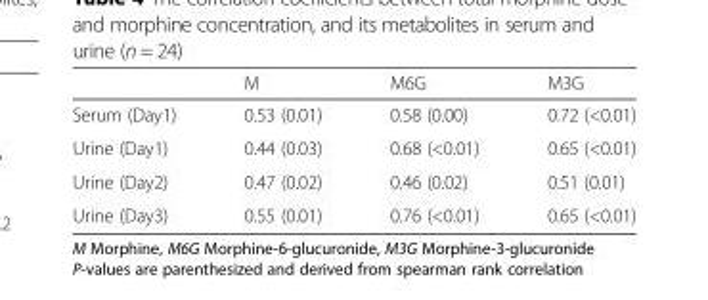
<table><thead><tr><td></td><td>M</td><td>M6G</td><td>M3G</td></tr></thead><tbody><tr><td>Serum (Day1)</td><td>0.53 (0.01)</td><td>0.58 (0.00)</td><td>0.72 (&lt;0.01)</td></tr><tr><td>Urine (Day1)</td><td>0.44 (0.03)</td><td>0.68 (&lt;0.01)</td><td>0.65 (&lt;0.01)</td></tr><tr><td>Urine (Day2)</td><td>0.47 (0.02)</td><td>0.46 (0.02)</td><td>0.51 (0.01)</td></tr><tr><td>Urine (Day3)</td><td>0.55 (0.01)</td><td>0.76 (&lt;0.01)</td><td>0.65 (&lt;0.01)</td></tr></tbody></table>